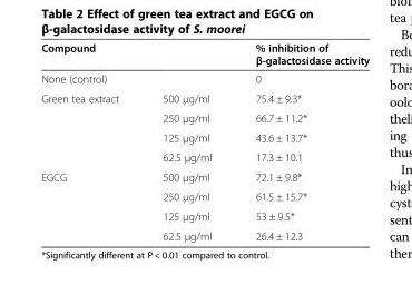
<table><thead><tr><td>Compound</td><td></td><td>% inhibition of β-galactosidase activity</td></tr></thead><tbody><tr><td>None (control)</td><td></td><td>0</td></tr><tr><td rowspan="4">Green tea extract</td><td>500 μg/ml</td><td>75.4 ± 9.3*</td></tr><tr><td>250 μg/ml</td><td>66.7 ± 11.2*</td></tr><tr><td>125 μg/ml</td><td>43.6 ± 13.7*</td></tr><tr><td>62.5 μg/ml</td><td>17.3 ± 10.1</td></tr><tr><td rowspan="4">EGCG</td><td>500 μg/ml</td><td>72.1 ± 9.8*</td></tr><tr><td>250 μg/ml</td><td>61.5 ± 15.7*</td></tr><tr><td>125 μg/ml</td><td>53 ± 9.5*</td></tr><tr><td>62.5 μg/ml</td><td>26.4 ± 12.3</td></tr></tbody></table>